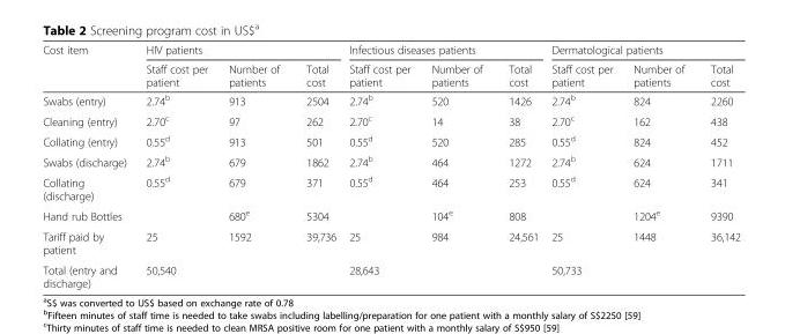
<table><thead><tr><td rowspan="2">Cost item</td><td colspan="3">HIV patients</td><td colspan="3">Infectious diseases patients</td><td colspan="3">Dermatological patients</td></tr><tr><td>Staff cost per patient</td><td>Number of patients</td><td>Total cost</td><td>Staff cost per patient</td><td>Number of patients</td><td>Total cost</td><td>Staff cost per patient</td><td>Number of patients</td><td>Total cost</td></tr></thead><tbody><tr><td>Swabs (entry)</td><td>2.74<sup>b</sup></td><td>913</td><td>2504</td><td>2.74<sup>b</sup></td><td>520</td><td>1426</td><td>2.74<sup>b</sup></td><td>824</td><td>2260</td></tr><tr><td>Cleaning (entry)</td><td>2.70<sup>c</sup></td><td>97</td><td>262</td><td>2.70<sup>c</sup></td><td>14</td><td>38</td><td>2.70<sup>c</sup></td><td>162</td><td>438</td></tr><tr><td>Collating (entry)</td><td>0.55<sup>d</sup></td><td>913</td><td>501</td><td>0.55<sup>d</sup></td><td>520</td><td>285</td><td>0.55<sup>d</sup></td><td>824</td><td>452</td></tr><tr><td>Swabs (discharge)</td><td>2.74<sup>b</sup></td><td>679</td><td>1862</td><td>2.74<sup>b</sup></td><td>464</td><td>1272</td><td>2.74<sup>b</sup></td><td>624</td><td>1711</td></tr><tr><td>Collating (discharge)</td><td>0.55<sup>d</sup></td><td>679</td><td>371</td><td>0.55<sup>d</sup></td><td>464</td><td>253</td><td>0.55<sup>d</sup></td><td>624</td><td>341</td></tr><tr><td>Hand rub Bottles</td><td></td><td>680<sup>e</sup></td><td>5304</td><td></td><td>104<sup>e</sup></td><td>808</td><td></td><td>1204<sup>e</sup></td><td>9390</td></tr><tr><td>Tariff paid by patient</td><td>25</td><td>1592</td><td>39,736</td><td>25</td><td>984</td><td>24,561</td><td>25</td><td>1448</td><td>36,142</td></tr><tr><td>Total (entry and discharge)</td><td colspan="3">50,540</td><td colspan="3">28,643</td><td colspan="3">50,733</td></tr></tbody></table>